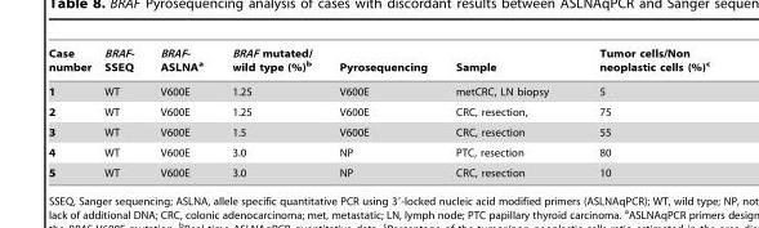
<table><thead><tr><td>Case number</td><td>BRAF- SSEQ</td><td>BRAF- ASLNA<sup>a</sup></td><td>BRAF mutated/ wild type (%)<sup>b</sup></td><td>Pyrosequencing</td><td>Sample</td><td>Tumor cells/Non neoplastic cells (%)<sup>c</sup></td></tr></thead><tbody><tr><td>1</td><td>WT</td><td>V600E</td><td>1.25</td><td>V600E</td><td>metCRC, LN biopsy</td><td>5</td></tr><tr><td>2</td><td>WT</td><td>V600E</td><td>1.25</td><td>V600E</td><td>CRC, resection,</td><td>75</td></tr><tr><td>3</td><td>WT</td><td>V600E</td><td>1.5</td><td>V600E</td><td>CRC, resection</td><td>55</td></tr><tr><td>4</td><td>WT</td><td>V600E</td><td>3.0</td><td>NP</td><td>PTC, resection</td><td>80</td></tr><tr><td>5</td><td>WT</td><td>V600E</td><td>3.0</td><td>NP</td><td>CRC, resection</td><td>10</td></tr></tbody></table>